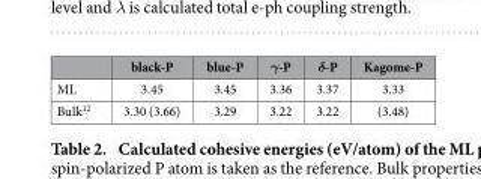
<table><thead><tr><td></td><td>black-P</td><td>blue-P</td><td>γ-P</td><td>δ-P</td><td>Kagome-P</td></tr></thead><tbody><tr><td>ML</td><td>3.45</td><td>3.45</td><td>3.36</td><td>3.37</td><td>3.33</td></tr><tr><td>Bulk<sup>12</sup></td><td>3.30 (3.66)</td><td>3.29</td><td>3.22</td><td>3.22</td><td>(3.48)</td></tr></tbody></table>